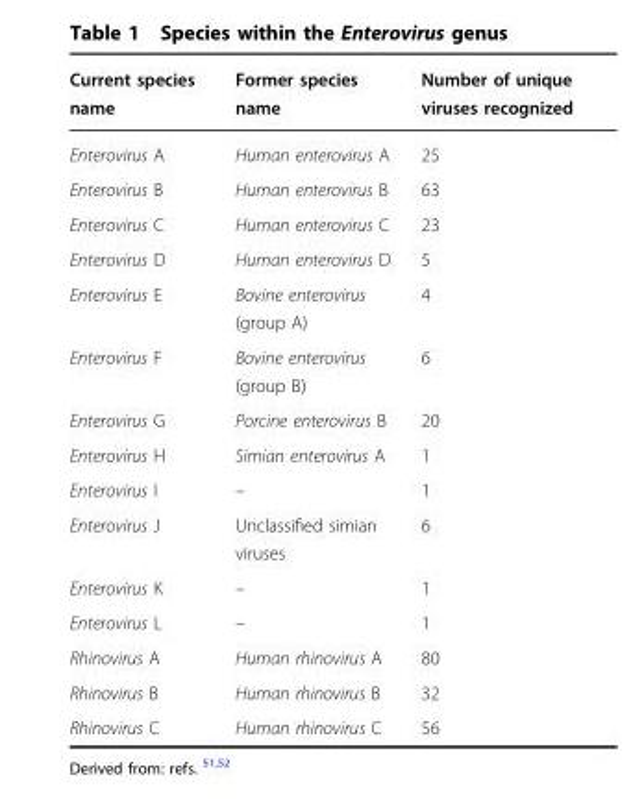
<table><thead><tr><td>Current species name</td><td>Former species name</td><td>Number of unique viruses recognized</td></tr></thead><tbody><tr><td>Enterovirus A</td><td>Human enterovirus A</td><td>25</td></tr><tr><td>Enterovirus B</td><td>Human enterovirus B</td><td>63</td></tr><tr><td>Enterovirus C</td><td>Human enterovirus C</td><td>23</td></tr><tr><td>Enterovirus D</td><td>Human enterovirus D</td><td>5</td></tr><tr><td>Enterovirus E</td><td>Bovine enterovirus (group A)</td><td>4</td></tr><tr><td>Enterovirus F</td><td>Bovine enterovirus (group B)</td><td>6</td></tr><tr><td>Enterovirus G</td><td>Porcine enterovirus B</td><td>20</td></tr><tr><td>Enterovirus H</td><td>Simian enterovirus A</td><td>1</td></tr><tr><td>Enterovirus I</td><td>–</td><td>1</td></tr><tr><td>Enterovirus J</td><td>Unclassified simian viruses</td><td>6</td></tr><tr><td>Enterovirus K</td><td>–</td><td>1</td></tr><tr><td>Enterovirus L</td><td>–</td><td>1</td></tr><tr><td>Rhinovirus A</td><td>Human rhinovirus A</td><td>80</td></tr><tr><td>Rhinovirus B</td><td>Human rhinovirus B</td><td>32</td></tr><tr><td>Rhinovirus C</td><td>Human rhinovirus C</td><td>56</td></tr></tbody></table>